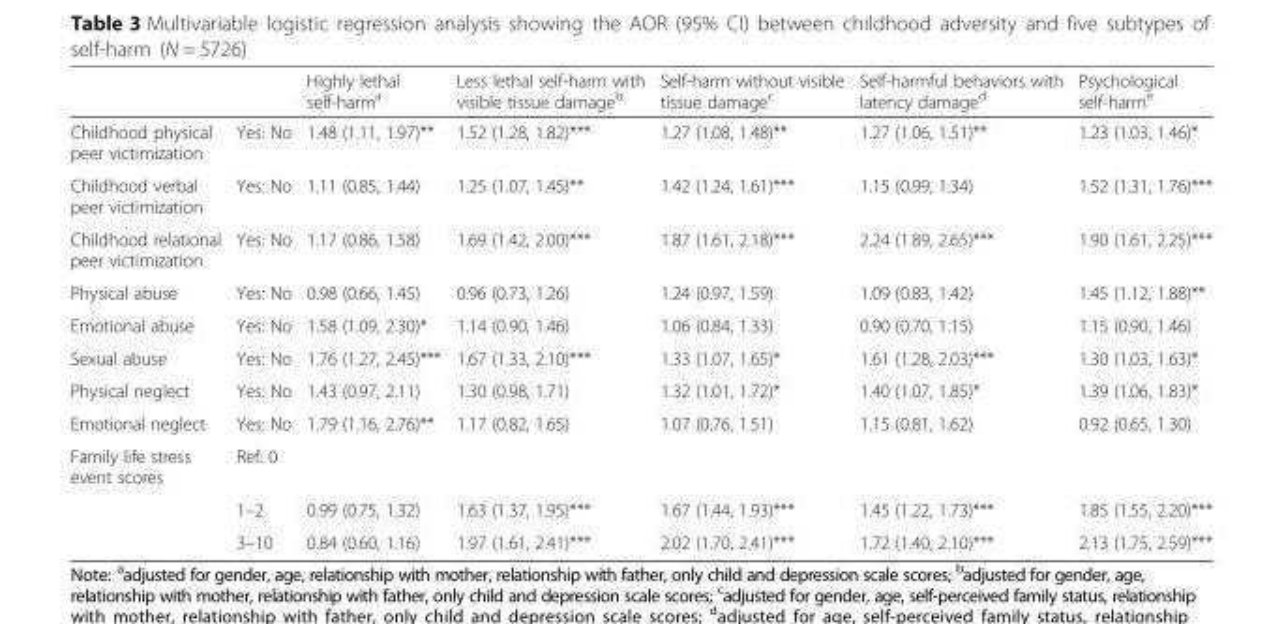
<table><thead><tr><td></td><td></td><td>Highly lethal self-harm<sup>a</sup></td><td>Less lethal self-harm with visible tissue damage<sup>b</sup></td><td>Self-harm without visible tissue damage<sup>c</sup></td><td>Self-harmful behaviors with latency damage<sup>d</sup></td><td>Psychological self-harm<sup>e</sup></td></tr></thead><tbody><tr><td>Childhood physical peer victimization</td><td>Yes: No</td><td>1.48 (1.11, 1.97)**</td><td>1.52 (1.28, 1.82)***</td><td>1.27 (1.08, 1.48)**</td><td>1.27 (1.06, 1.51)**</td><td>1.23 (1.03, 1.46)*</td></tr><tr><td>Childhood verbal peer victimization</td><td>Yes: No</td><td>1.11 (0.85, 1.44)</td><td>1.25 (1.07, 1.45)**</td><td>1.42 (1.24, 1.61)***</td><td>1.15 (0.99, 1.34)</td><td>1.52 (1.31, 1.76)***</td></tr><tr><td>Childhood relational peer victimization</td><td>Yes: No</td><td>1.17 (0.86, 1.58)</td><td>1.69 (1.42, 2.00)***</td><td>1.87 (1.61, 2.18)***</td><td>2.24 (1.89, 2.65)***</td><td>1.90 (1.61, 2.25)***</td></tr><tr><td>Physical abuse</td><td>Yes: No</td><td>0.98 (0.66, 1.45)</td><td>0.96 (0.73, 1.26)</td><td>1.24 (0.97, 1.59)</td><td>1.09 (0.83, 1.42)</td><td>1.45 (1.12, 1.88)**</td></tr><tr><td>Emotional abuse</td><td>Yes: No</td><td>1.58 (1.09, 2.30)*</td><td>1.14 (0.90, 1.46)</td><td>1.06 (0.84, 1.33)</td><td>0.90 (0.70, 1.15)</td><td>1.15 (0.90, 1.46)</td></tr><tr><td>Sexual abuse</td><td>Yes: No</td><td>1.76 (1.27, 2.45)***</td><td>1.67 (1.33, 2.10)***</td><td>1.33 (1.07, 1.65)*</td><td>1.61 (1.28, 2.03)***</td><td>1.30 (1.03, 1.63)*</td></tr><tr><td>Physical neglect</td><td>Yes: No</td><td>1.43 (0.97, 2.11)</td><td>1.30 (0.98, 1.71)</td><td>1.32 (1.01, 1.72)*</td><td>1.40 (1.07, 1.85)*</td><td>1.39 (1.06, 1.83)*</td></tr><tr><td>Emotional neglect</td><td>Yes: No</td><td>1.79 (1.16, 2.76)**</td><td>1.17 (0.82, 1.65)</td><td>1.07 (0.76, 1.51)</td><td>1.15 (0.81, 1.62)</td><td>0.92 (0.65, 1.30)</td></tr><tr><td rowspan="3">Family life stress event scores</td><td colspan="6">Ref: 0</td></tr><tr><td>1–2</td><td>0.99 (0.75, 1.32)</td><td>1.63 (1.37, 1.95)***</td><td>1.67 (1.44, 1.93)***</td><td>1.45 (1.22, 1.73)***</td><td>1.85 (1.55, 2.20)***</td></tr><tr><td>3–10</td><td>0.84 (0.60, 1.16)</td><td>1.97 (1.61, 2.41)***</td><td>2.02 (1.70, 2.41)***</td><td>1.72 (1.40, 2.10)***</td><td>2.13 (1.75, 2.59)***</td></tr></tbody></table>